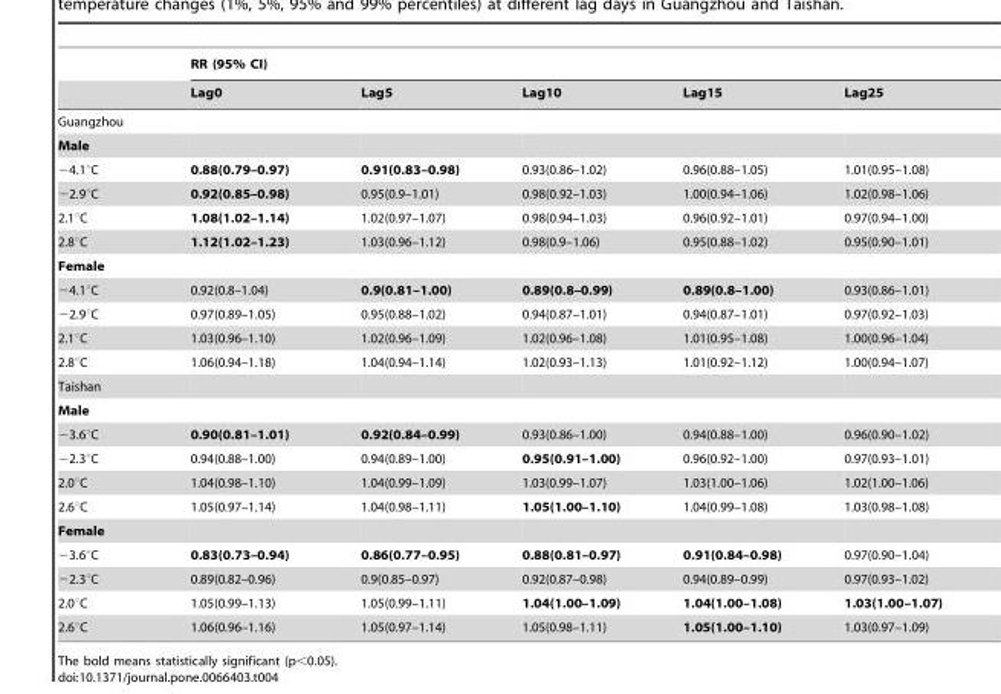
<table><thead><tr><td rowspan="2"></td><td colspan="5">RR (95% CI)</td></tr><tr><td>Lag0</td><td>Lag5</td><td>Lag10</td><td>Lag15</td><td>Lag25</td></tr></thead><tbody><tr><td colspan="6">Guangzhou</td></tr><tr><td colspan="6">Male</td></tr><tr><td>−4.1°C</td><td>0.88(0.79–0.97)</td><td>0.91(0.83–0.98)</td><td>0.93(0.86–1.02)</td><td>0.96(0.88–1.05)</td><td>1.01(0.95–1.08)</td></tr><tr><td>−2.9°C</td><td>0.92(0.85–0.98)</td><td>0.95(0.9–1.01)</td><td>0.98(0.92–1.03)</td><td>1.00(0.94–1.06)</td><td>1.02(0.98–1.06)</td></tr><tr><td>2.1°C</td><td>1.08(1.02–1.14)</td><td>1.02(0.97–1.07)</td><td>0.98(0.94–1.03)</td><td>0.96(0.92–1.01)</td><td>0.97(0.94–1.00)</td></tr><tr><td>2.8°C</td><td>1.12(1.02–1.23)</td><td>1.03(0.96–1.12)</td><td>0.98(0.9–1.06)</td><td>0.95(0.88–1.02)</td><td>0.95(0.90–1.01)</td></tr><tr><td colspan="6">Female</td></tr><tr><td>−4.1°C</td><td>0.92(0.8–1.04)</td><td>0.9(0.81–1.00)</td><td>0.89(0.8–0.99)</td><td>0.89(0.8–1.00)</td><td>0.93(0.86–1.01)</td></tr><tr><td>−2.9°C</td><td>0.97(0.89–1.05)</td><td>0.95(0.88–1.02)</td><td>0.94(0.87–1.01)</td><td>0.94(0.87–1.01)</td><td>0.97(0.92–1.03)</td></tr><tr><td>2.1°C</td><td>1.03(0.96–1.10)</td><td>1.02(0.96–1.09)</td><td>1.02(0.96–1.08)</td><td>1.01(0.95–1.08)</td><td>1.00(0.96–1.04)</td></tr><tr><td>2.8°C</td><td>1.06(0.94–1.18)</td><td>1.04(0.94–1.14)</td><td>1.02(0.93–1.13)</td><td>1.01(0.92–1.12)</td><td>1.00(0.94–1.07)</td></tr><tr><td colspan="6">Taishan</td></tr><tr><td colspan="6">Male</td></tr><tr><td>−3.6°C</td><td>0.90(0.81–1.01)</td><td>0.92(0.84–0.99)</td><td>0.93(0.86–1.00)</td><td>0.94(0.88–1.00)</td><td>0.96(0.90–1.02)</td></tr><tr><td>−2.3°C</td><td>0.94(0.88–1.00)</td><td>0.94(0.89–1.00)</td><td>0.95(0.91–1.00)</td><td>0.96(0.92–1.00)</td><td>0.97(0.93–1.01)</td></tr><tr><td>2.0°C</td><td>1.04(0.98–1.10)</td><td>1.04(0.99–1.09)</td><td>1.03(0.99–1.07)</td><td>1.03(1.00–1.06)</td><td>1.02(1.00–1.06)</td></tr><tr><td>2.6°C</td><td>1.05(0.97–1.14)</td><td>1.04(0.98–1.11)</td><td>1.05(1.00–1.10)</td><td>1.04(0.99–1.08)</td><td>1.03(0.98–1.08)</td></tr><tr><td colspan="6">Female</td></tr><tr><td>−3.6°C</td><td>0.83(0.73–0.94)</td><td>0.86(0.77–0.95)</td><td>0.88(0.81–0.97)</td><td>0.91(0.84–0.98)</td><td>0.97(0.90–1.04)</td></tr><tr><td>−2.3°C</td><td>0.89(0.82–0.96)</td><td>0.9(0.85–0.97)</td><td>0.92(0.87–0.98)</td><td>0.94(0.89–0.99)</td><td>0.97(0.93–1.02)</td></tr><tr><td>2.0°C</td><td>1.05(0.99–1.13)</td><td>1.05(0.99–1.11)</td><td>1.04(1.00–1.09)</td><td>1.04(1.00–1.08)</td><td>1.03(1.00–1.07)</td></tr><tr><td>2.6°C</td><td>1.06(0.96–1.16)</td><td>1.05(0.97–1.14)</td><td>1.05(0.98–1.11)</td><td>1.05(1.00–1.10)</td><td>1.03(0.97–1.09)</td></tr></tbody></table>